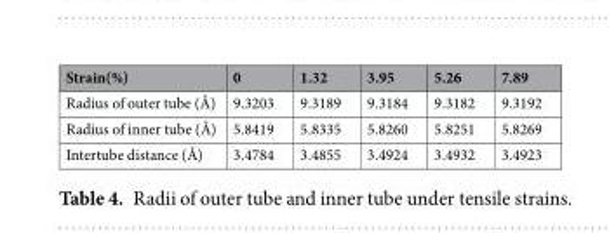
<table><thead><tr><td>Strain(%)</td><td>0</td><td>1.32</td><td>3.95</td><td>5.26</td><td>7.89</td></tr></thead><tbody><tr><td>Radius of outer tube (Å)</td><td>9.3203</td><td>9.3189</td><td>9.3184</td><td>9.3182</td><td>9.3192</td></tr><tr><td>Radius of inner tube (Å)</td><td>5.8419</td><td>5.8335</td><td>5.8260</td><td>5.8251</td><td>5.8269</td></tr><tr><td>Intertube distance (Å)</td><td>3.4784</td><td>3.4855</td><td>3.4924</td><td>3.4932</td><td>3.4923</td></tr></tbody></table>